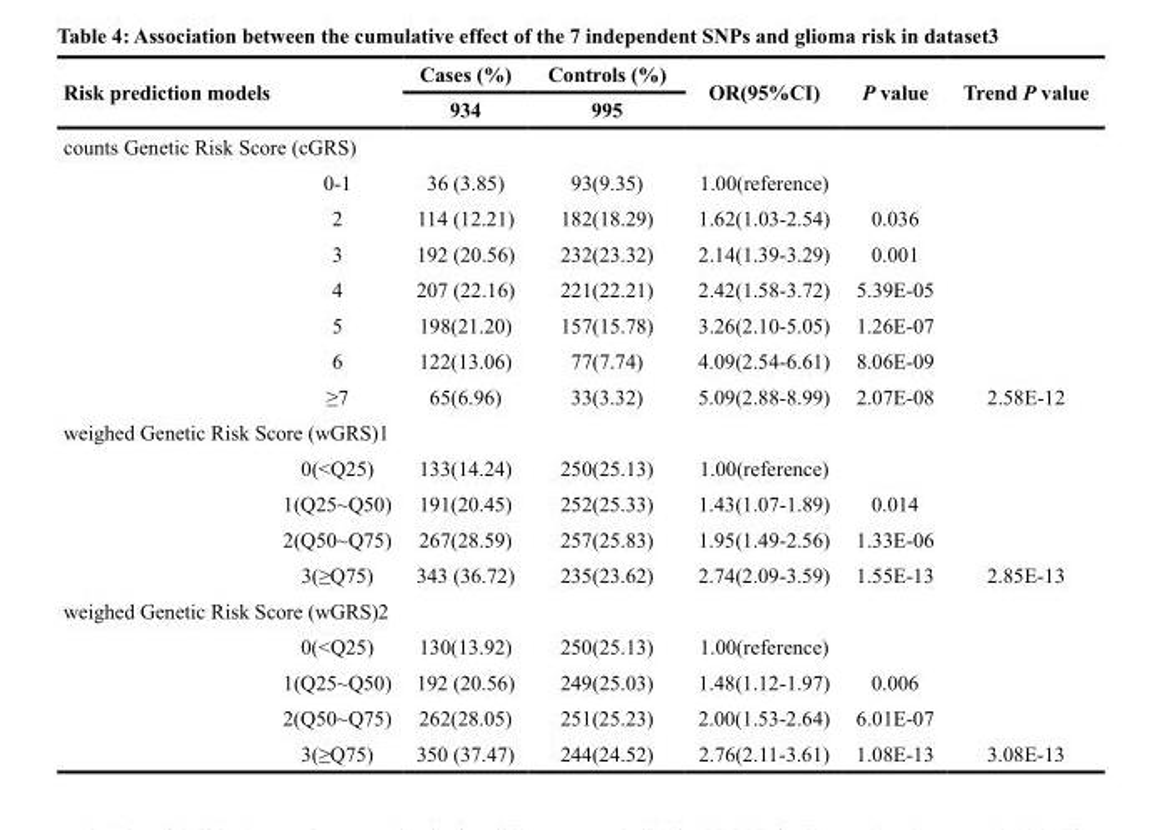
<table><thead><tr><td rowspan="2">Risk prediction models</td><td rowspan="2">Cases (%) 934</td><td rowspan="2">Controls (%) 995</td><td rowspan="2">OR(95%CI)</td><td rowspan="2">P value</td><td rowspan="2">Trend P value</td></tr><tr></tr></thead><tbody><tr><td colspan="6">counts Genetic Risk Score (cGRS)</td></tr><tr><td>0-1</td><td>36 (3.85)</td><td>93(9.35)</td><td>1.00(reference)</td><td></td><td></td></tr><tr><td>2</td><td>114 (12.21)</td><td>182(18.29)</td><td>1.62(1.03-2.54)</td><td>0.036</td><td></td></tr><tr><td>3</td><td>192 (20.56)</td><td>232(23.32)</td><td>2.14(1.39-3.29)</td><td>0.001</td><td></td></tr><tr><td>4</td><td>207 (22.16)</td><td>221(22.21)</td><td>2.42(1.58-3.72)</td><td>5.39E-05</td><td></td></tr><tr><td>5</td><td>198(21.20)</td><td>157(15.78)</td><td>3.26(2.10-5.05)</td><td>1.26E-07</td><td></td></tr><tr><td>6</td><td>122(13.06)</td><td>77(7.74)</td><td>4.09(2.54-6.61)</td><td>8.06E-09</td><td></td></tr><tr><td>≥7</td><td>65(6.96)</td><td>33(3.32)</td><td>5.09(2.88-8.99)</td><td>2.07E-08</td><td>2.58E-12</td></tr><tr><td colspan="6">weighed Genetic Risk Score (wGRS)1</td></tr><tr><td>0(&lt;Q25)</td><td>133(14.24)</td><td>250(25.13)</td><td>1.00(reference)</td><td></td><td></td></tr><tr><td>1(Q25~Q50)</td><td>191(20.45)</td><td>252(25.33)</td><td>1.43(1.07-1.89)</td><td>0.014</td><td></td></tr><tr><td>2(Q50~Q75)</td><td>267(28.59)</td><td>257(25.83)</td><td>1.95(1.49-2.56)</td><td>1.33E-06</td><td></td></tr><tr><td>3(≥Q75)</td><td>343 (36.72)</td><td>235(23.62)</td><td>2.74(2.09-3.59)</td><td>1.55E-13</td><td>2.85E-13</td></tr><tr><td colspan="6">weighed Genetic Risk Score (wGRS)2</td></tr><tr><td>0(&lt;Q25)</td><td>130(13.92)</td><td>250(25.13)</td><td>1.00(reference)</td><td></td><td></td></tr><tr><td>1(Q25~Q50)</td><td>192 (20.56)</td><td>249(25.03)</td><td>1.48(1.12-1.97)</td><td>0.006</td><td></td></tr><tr><td>2(Q50~Q75)</td><td>262(28.05)</td><td>251(25.23)</td><td>2.00(1.53-2.64)</td><td>6.01E-07</td><td></td></tr><tr><td>3(≥Q75)</td><td>350 (37.47)</td><td>244(24.52)</td><td>2.76(2.11-3.61)</td><td>1.08E-13</td><td>3.08E-13</td></tr></tbody></table>